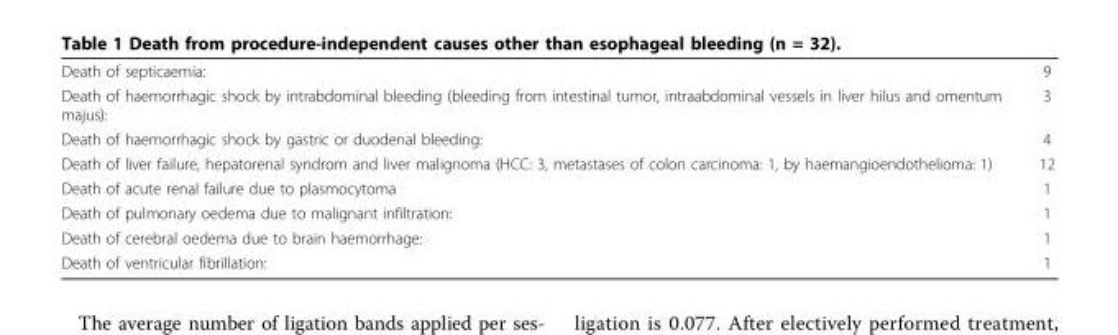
<table><tbody><tr><td>Death of septicaemia:</td><td>9</td></tr><tr><td>Death of haemorrhagic shock by intrabdominal bleeding (bleeding from intestinal tumor, intraabdominal vessels in liver hilus and omentum majus):</td><td>3</td></tr><tr><td>Death of haemorrhagic shock by gastric or duodenal bleeding:</td><td>4</td></tr><tr><td>Death of liver failure, hepatorenal syndrom and liver malignoma (HCC: 3, metastases of colon carcinoma: 1, by haemangioendothelioma: 1)</td><td>12</td></tr><tr><td>Death of acute renal failure due to plasmocytoma</td><td>1</td></tr><tr><td>Death of pulmonary oedema due to malignant infiltration:</td><td>1</td></tr><tr><td>Death of cerebral oedema due to brain haemorrhage:</td><td>1</td></tr><tr><td>Death of ventricular fibrillation:</td><td>1</td></tr></tbody></table>